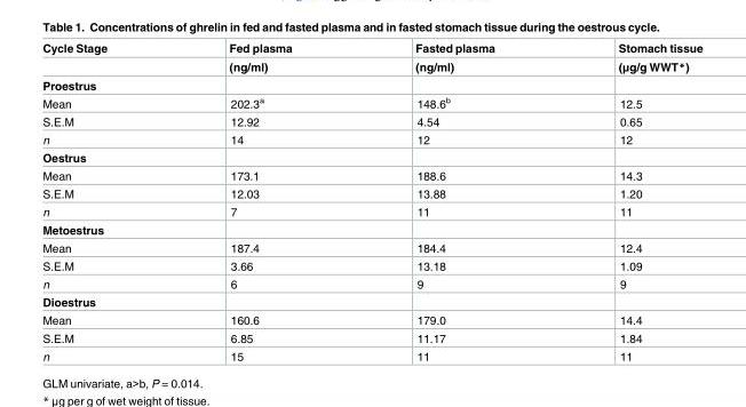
<table><thead><tr><td rowspan="2">Cycle Stage</td><td rowspan="2">Fed plasma (ng/ml)</td><td rowspan="2">Fasted plasma (ng/ml)</td><td rowspan="2">Stomach tissue (μg/g WWT*)</td></tr><tr></tr></thead><tbody><tr><td colspan="4">Proestrus</td></tr><tr><td>Mean</td><td>202.3<sup>a</sup></td><td>148.6<sup>b</sup></td><td>12.5</td></tr><tr><td>S.E.M</td><td>12.92</td><td>4.54</td><td>0.65</td></tr><tr><td>n</td><td>14</td><td>12</td><td>12</td></tr><tr><td colspan="4">Oestrus</td></tr><tr><td>Mean</td><td>173.1</td><td>188.6</td><td>14.3</td></tr><tr><td>S.E.M</td><td>12.03</td><td>13.88</td><td>1.20</td></tr><tr><td>n</td><td>7</td><td>11</td><td>11</td></tr><tr><td colspan="4">Metoestrus</td></tr><tr><td>Mean</td><td>187.4</td><td>184.4</td><td>12.4</td></tr><tr><td>S.E.M</td><td>3.66</td><td>13.18</td><td>1.09</td></tr><tr><td>n</td><td>6</td><td>9</td><td>9</td></tr><tr><td colspan="4">Dioestrus</td></tr><tr><td>Mean</td><td>160.6</td><td>179.0</td><td>14.4</td></tr><tr><td>S.E.M</td><td>6.85</td><td>11.17</td><td>1.84</td></tr><tr><td>n</td><td>15</td><td>11</td><td>11</td></tr></tbody></table>